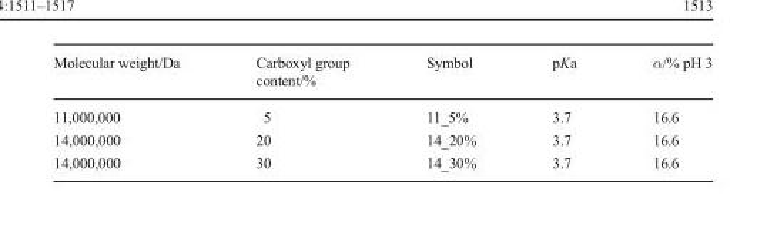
<table><thead><tr><td>Molecular weight/Da</td><td>Carboxyl group content/%</td><td>Symbol</td><td>pKa</td><td>α/% pH 3</td></tr></thead><tbody><tr><td>11,000,000</td><td>5</td><td>11_5%</td><td>3.7</td><td>16.6</td></tr><tr><td>14,000,000</td><td>20</td><td>14_20%</td><td>3.7</td><td>16.6</td></tr><tr><td>14,000,000</td><td>30</td><td>14_30%</td><td>3.7</td><td>16.6</td></tr></tbody></table>